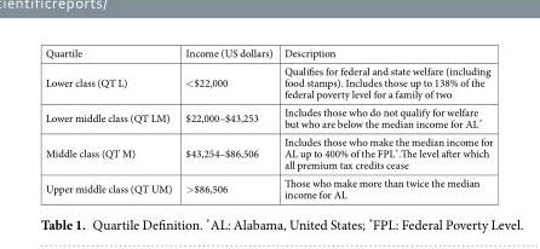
<table><tbody><tr><td>Quartile</td><td>Income (US dollars)</td><td>Description</td></tr><tr><td>Lower class (QT L)</td><td>&lt;$22,000</td><td>Qualifies for federal and state welfare (including food stamps). Includes those up to 138% of the federal poverty level for a family of two</td></tr><tr><td>Lower middle class (QT LM)</td><td>$22,000–$43,253</td><td>Includes those who do not qualify for welfare but who are below the median income for AL*</td></tr><tr><td>Middle class (QT M)</td><td>$43,254–$86,506</td><td>Includes those who make the median income for AL up to 400% of the FPL*.The level after which all premium tax credits cease</td></tr><tr><td>Upper middle class (QT UM)</td><td>&gt;$86,506</td><td>Those who make more than twice the median income for AL</td></tr></tbody></table>